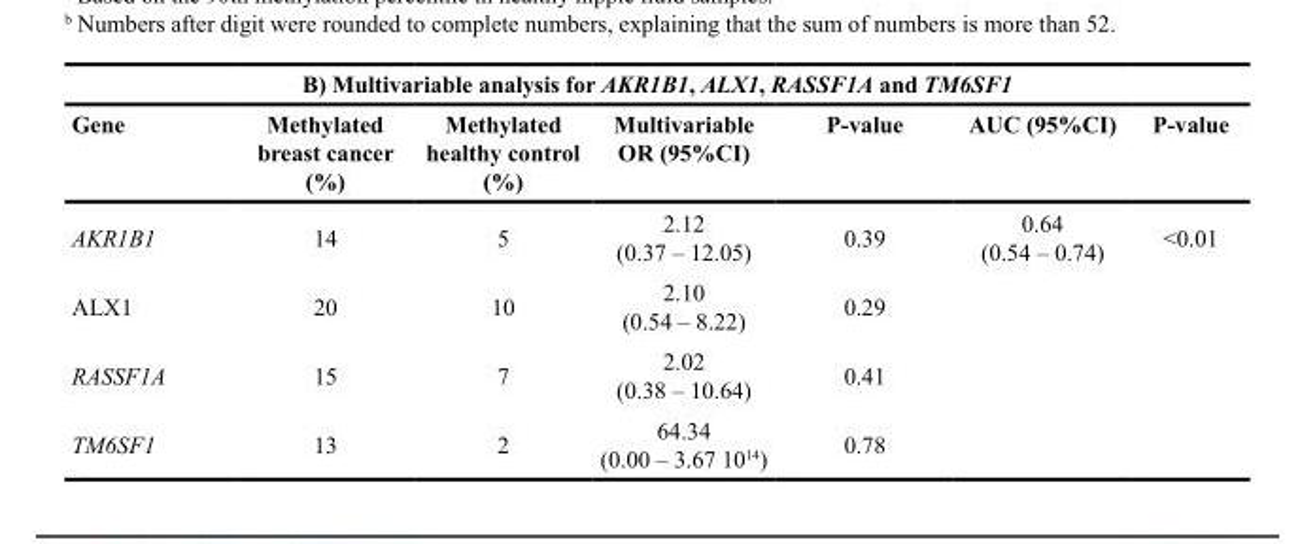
<table><thead><tr><td colspan="7">B) Multivariable analysis for AKR1B1, ALX1, RASSF1A and TM6SF1</td></tr><tr><td>Gene</td><td>Methylated breast cancer (%)</td><td>Methylated healthy control (%)</td><td>Multivariable OR (95%CI)</td><td>P-value</td><td>AUC (95%CI)</td><td>P-value</td></tr></thead><tbody><tr><td>AKR1B1</td><td>14</td><td>5</td><td>2.12 (0.37 – 12.05)</td><td>0.39</td><td>0.64 (0.54 – 0.74)</td><td>&lt;0.01</td></tr><tr><td>ALX1</td><td>20</td><td>10</td><td>2.10 (0.54 – 8.22)</td><td>0.29</td><td></td><td></td></tr><tr><td>RASSF1A</td><td>15</td><td>7</td><td>2.02 (0.38 – 10.64)</td><td>0.41</td><td></td><td></td></tr><tr><td>TM6SF1</td><td>13</td><td>2</td><td>64.34 (0.00 – 3.67 10<sup>14</sup>)</td><td>0.78</td><td></td><td></td></tr></tbody></table>